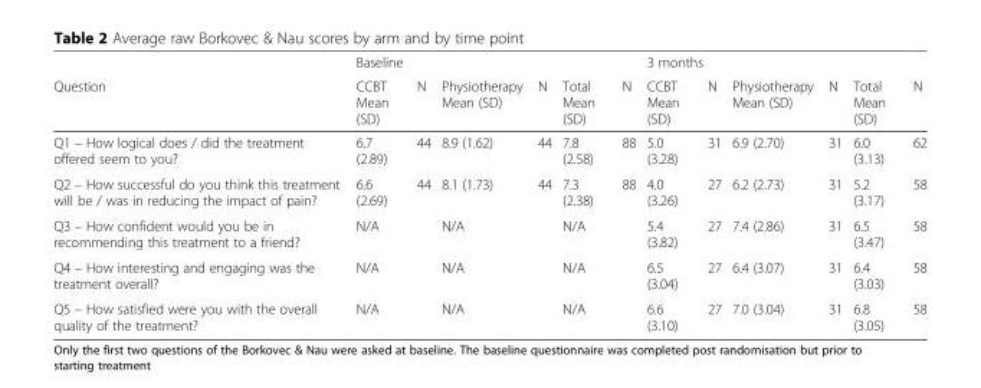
<table><thead><tr><td rowspan="2">Question</td><td colspan="6">Baseline</td><td colspan="6">3 months</td></tr><tr><td>CCBT Mean (SD)</td><td>N</td><td>Physiotherapy Mean (SD)</td><td>N</td><td>Total Mean (SD)</td><td>N</td><td>CCBT Mean (SD)</td><td>N</td><td>Physiotherapy Mean (SD)</td><td>N</td><td>Total Mean (SD)</td><td>N</td></tr></thead><tbody><tr><td>Q1 – How logical does / did the treatment offered seem to you?</td><td>6.7 (2.89)</td><td>44</td><td>8.9 (1.62)</td><td>44</td><td>7.8 (2.58)</td><td>88</td><td>5.0 (3.28)</td><td>31</td><td>6.9 (2.70)</td><td>31</td><td>6.0 (3.13)</td><td>62</td></tr><tr><td>Q2 – How successful do you think this treatment will be / was in reducing the impact of pain?</td><td>6.6 (2.69)</td><td>44</td><td>8.1 (1.73)</td><td>44</td><td>7.3 (2.38)</td><td>88</td><td>4.0 (3.26)</td><td>27</td><td>6.2 (2.73)</td><td>31</td><td>5.2 (3.17)</td><td>58</td></tr><tr><td>Q3 – How confident would you be in recommending this treatment to a friend?</td><td colspan="2">N/A</td><td colspan="2">N/A</td><td colspan="2">N/A</td><td>5.4 (3.82)</td><td>27</td><td>7.4 (2.86)</td><td>31</td><td>6.5 (3.47)</td><td>58</td></tr><tr><td>Q4 – How interesting and engaging was the treatment overall?</td><td colspan="2">N/A</td><td colspan="2">N/A</td><td colspan="2">N/A</td><td>6.5 (3.04)</td><td>27</td><td>6.4 (3.07)</td><td>31</td><td>6.4 (3.03)</td><td>58</td></tr><tr><td>Q5 – How satisfied were you with the overall quality of the treatment?</td><td colspan="2">N/A</td><td colspan="2">N/A</td><td colspan="2">N/A</td><td>6.6 (3.10)</td><td>27</td><td>7.0 (3.04)</td><td>31</td><td>6.8 (3.05)</td><td>58</td></tr></tbody></table>